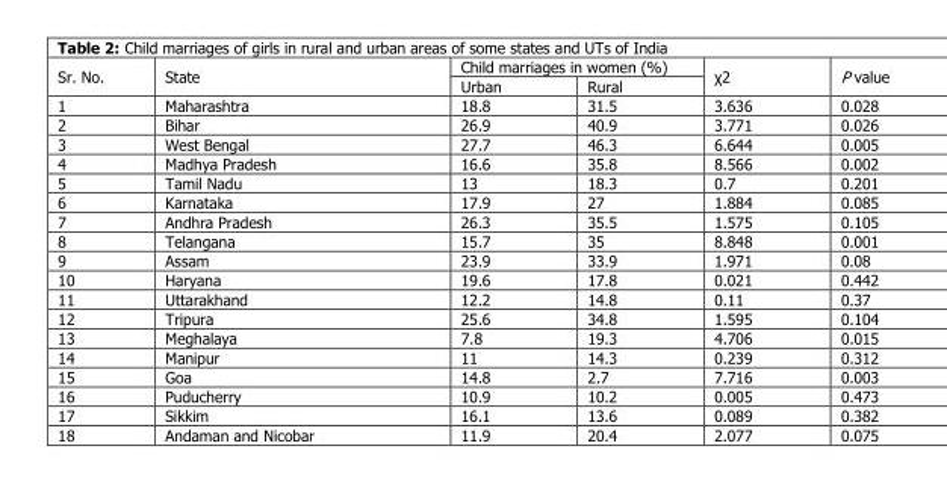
<table><thead><tr><td rowspan="2">Sr. No.</td><td rowspan="2">State</td><td colspan="2">Child marriages in women (%)</td><td rowspan="2">χ2</td><td rowspan="2">P value</td></tr><tr><td>Urban</td><td>Rural</td></tr></thead><tbody><tr><td>1</td><td>Maharashtra</td><td>18.8</td><td>31.5</td><td>3.636</td><td>0.028</td></tr><tr><td>2</td><td>Bihar</td><td>26.9</td><td>40.9</td><td>3.771</td><td>0.026</td></tr><tr><td>3</td><td>West Bengal</td><td>27.7</td><td>46.3</td><td>6.644</td><td>0.005</td></tr><tr><td>4</td><td>Madhya Pradesh</td><td>16.6</td><td>35.8</td><td>8.566</td><td>0.002</td></tr><tr><td>5</td><td>Tamil Nadu</td><td>13</td><td>18.3</td><td>0.7</td><td>0.201</td></tr><tr><td>6</td><td>Karnataka</td><td>17.9</td><td>27</td><td>1.884</td><td>0.085</td></tr><tr><td>7</td><td>Andhra Pradesh</td><td>26.3</td><td>35.5</td><td>1.575</td><td>0.105</td></tr><tr><td>8</td><td>Telangana</td><td>15.7</td><td>35</td><td>8.848</td><td>0.001</td></tr><tr><td>9</td><td>Assam</td><td>23.9</td><td>33.9</td><td>1.971</td><td>0.08</td></tr><tr><td>10</td><td>Haryana</td><td>19.6</td><td>17.8</td><td>0.021</td><td>0.442</td></tr><tr><td>11</td><td>Uttarakhand</td><td>12.2</td><td>14.8</td><td>0.11</td><td>0.37</td></tr><tr><td>12</td><td>Tripura</td><td>25.6</td><td>34.8</td><td>1.595</td><td>0.104</td></tr><tr><td>13</td><td>Meghalaya</td><td>7.8</td><td>19.3</td><td>4.706</td><td>0.015</td></tr><tr><td>14</td><td>Manipur</td><td>11</td><td>14.3</td><td>0.239</td><td>0.312</td></tr><tr><td>15</td><td>Goa</td><td>14.8</td><td>2.7</td><td>7.716</td><td>0.003</td></tr><tr><td>16</td><td>Puducherry</td><td>10.9</td><td>10.2</td><td>0.005</td><td>0.473</td></tr><tr><td>17</td><td>Sikkim</td><td>16.1</td><td>13.6</td><td>0.089</td><td>0.382</td></tr><tr><td>18</td><td>Andaman and Nicobar</td><td>11.9</td><td>20.4</td><td>2.077</td><td>0.075</td></tr></tbody></table>